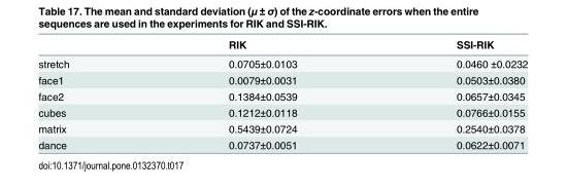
<table><thead><tr><td></td><td>RIK</td><td>SSI-RIK</td></tr></thead><tbody><tr><td>stretch</td><td>0.0705±0.0103</td><td>0.0460 ±0.0232</td></tr><tr><td>face1</td><td>0.0079±0.0031</td><td>0.0503±0.0380</td></tr><tr><td>face2</td><td>0.1384±0.0539</td><td>0.0657±0.0345</td></tr><tr><td>cubes</td><td>0.1212±0.0118</td><td>0.0766±0.0155</td></tr><tr><td>matrix</td><td>0.5439±0.0724</td><td>0.2540±0.0378</td></tr><tr><td>dance</td><td>0.0737±0.0051</td><td>0.0622±0.0071</td></tr></tbody></table>